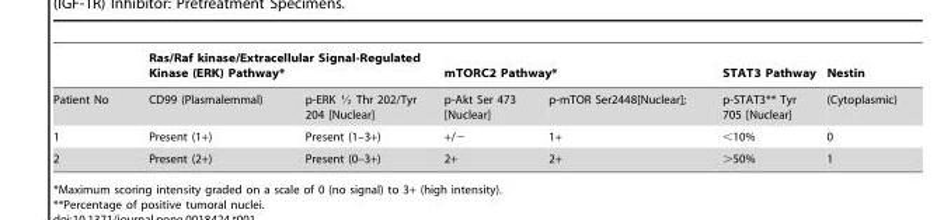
<table><thead><tr><td rowspan="2">Patient No</td><td colspan="2">Ras/Raf kinase/Extracellular Signal-Regulated Kinase (ERK) Pathway*</td><td colspan="2">mTORC2 Pathway*</td><td rowspan="2">STAT3 Pathway p-STAT3** Tyr 705 [Nuclear]</td><td rowspan="2">Nestin (Cytoplasmic)</td></tr><tr><td>CD99 (Plasmalemmal)</td><td>p-ERK K Thr 202/Tyr 204 [Nuclear]</td><td>p-Akt Ser 473 [Nuclear]</td><td>p-mTOR Ser2448[Nuclear];</td></tr></thead><tbody><tr><td>1</td><td>Present (1+)</td><td>Present (1–3+)</td><td>+/−</td><td>1+</td><td>&lt;10%</td><td>0</td></tr><tr><td>2</td><td>Present (2+)</td><td>Present (0–3+)</td><td>2+</td><td>2+</td><td>&gt;50%</td><td>1</td></tr></tbody></table>